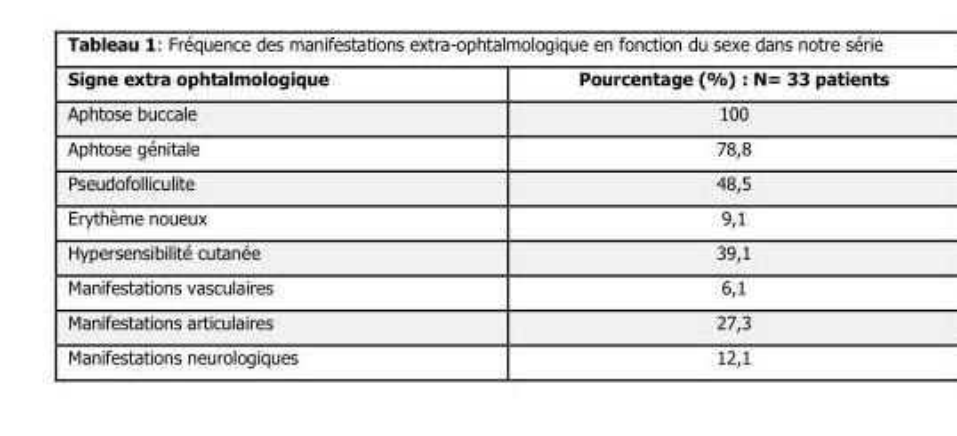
<table><thead><tr><td>Signe extra ophtalmologique</td><td>Pourcentage (%) : N= 33 patients</td></tr></thead><tbody><tr><td>Aphtose buccale</td><td>100</td></tr><tr><td>Aphtose génitale</td><td>78,8</td></tr><tr><td>Pseudofolliculite</td><td>48,5</td></tr><tr><td>Erythème noueux</td><td>9,1</td></tr><tr><td>Hypersensibilité cutanée</td><td>39,1</td></tr><tr><td>Manifestations vasculaires</td><td>6,1</td></tr><tr><td>Manifestations articulaires</td><td>27,3</td></tr><tr><td>Manifestations neurologiques</td><td>12,1</td></tr></tbody></table>